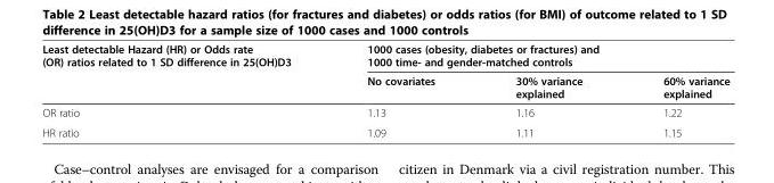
<table><thead><tr><td rowspan="2">Least detectable Hazard (HR) or Odds rate (OR) ratios related to 1 SD difference in 25(OH)D3</td><td colspan="3">1000 cases (obesity, diabetes or fractures) and 1000 time- and gender-matched controls</td></tr><tr><td>No covariates</td><td>30% variance explained</td><td>60% variance explained</td></tr></thead><tbody><tr><td>OR ratio</td><td>1.13</td><td>1.16</td><td>1.22</td></tr><tr><td>HR ratio</td><td>1.09</td><td>1.11</td><td>1.15</td></tr></tbody></table>